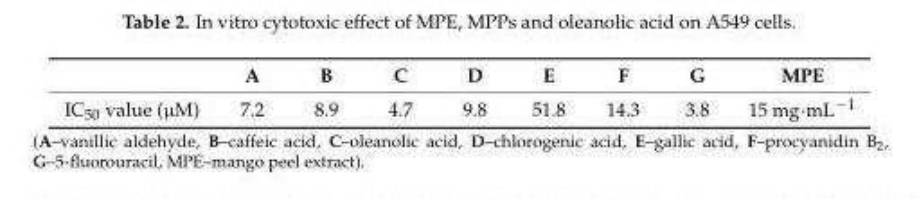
<table><thead><tr><td></td><td>A</td><td>B</td><td>C</td><td>D</td><td>E</td><td>F</td><td>G</td><td>MPE</td></tr></thead><tbody><tr><td>IC<sub>50</sub> value (µM)</td><td>7.2</td><td>8.9</td><td>4.7</td><td>9.8</td><td>51.8</td><td>14.3</td><td>3.8</td><td>15 mg·mL<sup>−1</sup></td></tr></tbody></table>